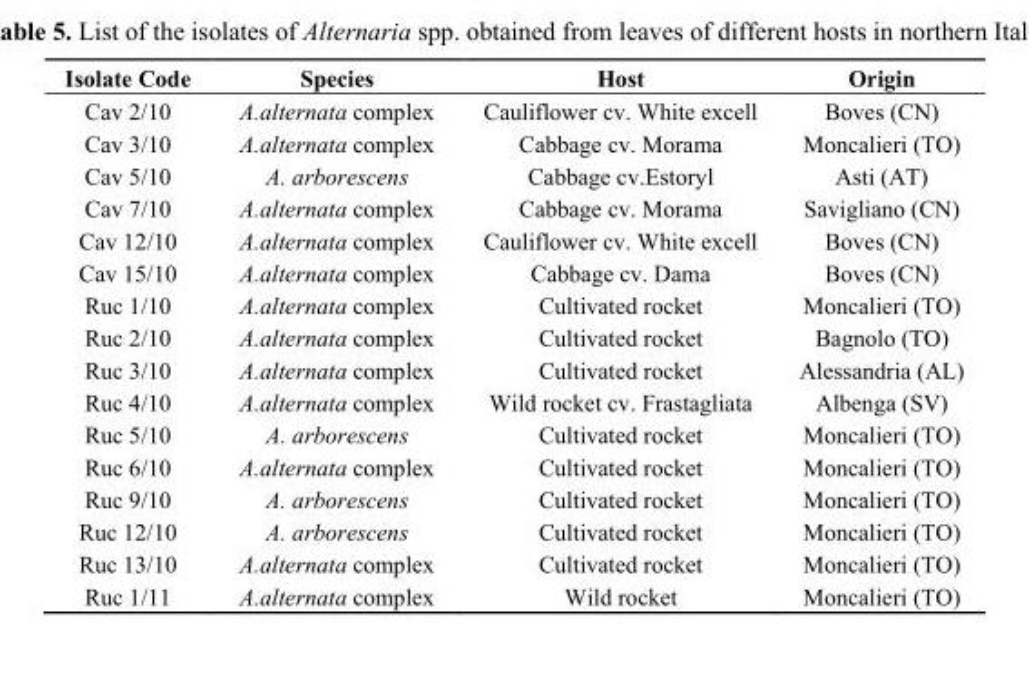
<table><thead><tr><td>Isolate Code</td><td>Species</td><td>Host</td><td>Origin</td></tr></thead><tbody><tr><td>Cav 2/10</td><td>A.alternata complex</td><td>Cauliflower cv. White excell</td><td>Boves (CN)</td></tr><tr><td>Cav 3/10</td><td>A.alternata complex</td><td>Cabbage cv. Morama</td><td>Moncalieri (TO)</td></tr><tr><td>Cav 5/10</td><td>A. arborescens</td><td>Cabbage cv.Estoryl</td><td>Asti (AT)</td></tr><tr><td>Cav 7/10</td><td>A.alternata complex</td><td>Cabbage cv. Morama</td><td>Savigliano (CN)</td></tr><tr><td>Cav 12/10</td><td>A.alternata complex</td><td>Cauliflower cv. White excell</td><td>Boves (CN)</td></tr><tr><td>Cav 15/10</td><td>A.alternata complex</td><td>Cabbage cv. Dama</td><td>Boves (CN)</td></tr><tr><td>Ruc 1/10</td><td>A.alternata complex</td><td>Cultivated rocket</td><td>Moncalieri (TO)</td></tr><tr><td>Ruc 2/10</td><td>A.alternata complex</td><td>Cultivated rocket</td><td>Bagnolo (TO)</td></tr><tr><td>Ruc 3/10</td><td>A.alternata complex</td><td>Cultivated rocket</td><td>Alessandria (AL)</td></tr><tr><td>Ruc 4/10</td><td>A.alternata complex</td><td>Wild rocket cv. Frastagliata</td><td>Albenga (SV)</td></tr><tr><td>Ruc 5/10</td><td>A. arborescens</td><td>Cultivated rocket</td><td>Moncalieri (TO)</td></tr><tr><td>Ruc 6/10</td><td>A.alternata complex</td><td>Cultivated rocket</td><td>Moncalieri (TO)</td></tr><tr><td>Ruc 9/10</td><td>A. arborescens</td><td>Cultivated rocket</td><td>Moncalieri (TO)</td></tr><tr><td>Ruc 12/10</td><td>A. arborescens</td><td>Cultivated rocket</td><td>Moncalieri (TO)</td></tr><tr><td>Ruc 13/10</td><td>A.alternata complex</td><td>Cultivated rocket</td><td>Moncalieri (TO)</td></tr><tr><td>Ruc 1/11</td><td>A.alternata complex</td><td>Wild rocket</td><td>Moncalieri (TO)</td></tr></tbody></table>